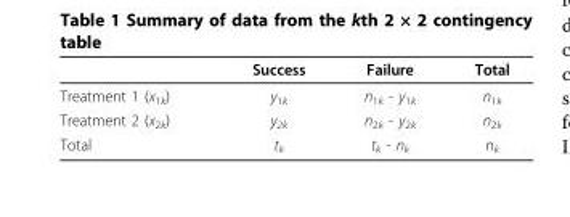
<table><thead><tr><td></td><td>Success</td><td>Failure</td><td>Total</td></tr></thead><tbody><tr><td>Treatment 1 (x<sub>1k</sub>)</td><td>y<sub>1k</sub></td><td>n<sub>1k</sub> - y<sub>1k</sub></td><td>n<sub>1k</sub></td></tr><tr><td>Treatment 2 (x<sub>2k</sub>)</td><td>y<sub>2k</sub></td><td>n<sub>2k</sub> - y<sub>2k</sub></td><td>n<sub>2k</sub></td></tr><tr><td>Total</td><td>t<sub>k</sub></td><td>t<sub>k</sub> - n<sub>k</sub></td><td>n<sub>k</sub></td></tr></tbody></table>